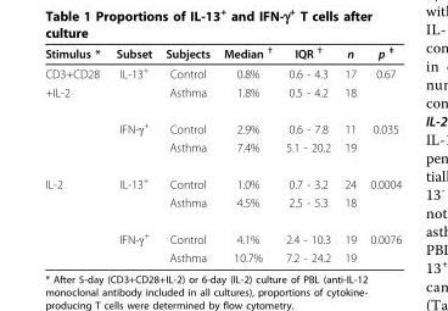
<table><thead><tr><td>Stimulus *</td><td>Subset</td><td>Subjects</td><td>Median <sup>†</sup></td><td>IQR <sup>†</sup></td><td>n</td><td>p <sup>‡</sup></td></tr></thead><tbody><tr><td>CD3+CD28</td><td>IL-13<sup>+</sup></td><td>Control</td><td>0.8%</td><td>0.6 - 4.3</td><td>17</td><td>0.67</td></tr><tr><td rowspan="3">+IL-2</td><td></td><td>Asthma</td><td>1.8%</td><td>0.5 - 4.2</td><td>18</td><td></td></tr><tr><td>IFN-γ<sup>+</sup></td><td>Control</td><td>2.9%</td><td>0.6 - 7.8</td><td>11</td><td>0.035</td></tr><tr><td></td><td>Asthma</td><td>7.4%</td><td>5.1 - 20.2</td><td>19</td><td></td></tr><tr><td rowspan="4">IL-2</td><td>IL-13<sup>+</sup></td><td>Control</td><td>1.0%</td><td>0.7 - 3.2</td><td>24</td><td>0.0004</td></tr><tr><td></td><td>Asthma</td><td>4.5%</td><td>2.5 - 5.3</td><td>18</td><td></td></tr><tr><td>IFN-γ<sup>+</sup></td><td>Control</td><td>4.1%</td><td>2.4 - 10.3</td><td>19</td><td>0.0076</td></tr><tr><td></td><td>Asthma</td><td>10.7%</td><td>7.2 - 24.2</td><td>19</td><td></td></tr></tbody></table>